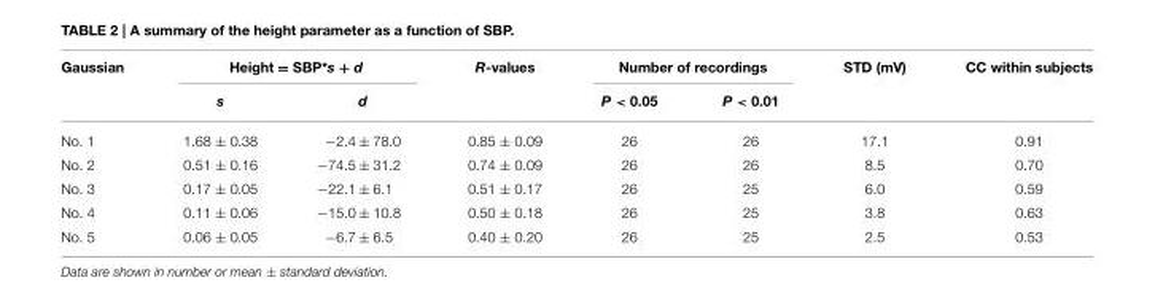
<table><thead><tr><td rowspan="2">Gaussian</td><td colspan="2">Height = SBP*s + d</td><td rowspan="2">R-values</td><td colspan="2">Number of recordings</td><td rowspan="2">STD (mV)</td><td rowspan="2">CC within subjects</td></tr><tr><td>s</td><td>d</td><td>P &lt; 0.05</td><td>P &lt; 0.01</td></tr></thead><tbody><tr><td>No. 1</td><td>1.68 ± 0.38</td><td>−2.4 ± 78.0</td><td>0.85 ± 0.09</td><td>26</td><td>26</td><td>17.1</td><td>0.91</td></tr><tr><td>No. 2</td><td>0.51 ± 0.16</td><td>−74.5 ± 31.2</td><td>0.74 ± 0.09</td><td>26</td><td>26</td><td>8.5</td><td>0.70</td></tr><tr><td>No. 3</td><td>0.17 ± 0.05</td><td>−22.1 ± 6.1</td><td>0.51 ± 0.17</td><td>26</td><td>25</td><td>6.0</td><td>0.59</td></tr><tr><td>No. 4</td><td>0.11 ± 0.06</td><td>−15.0 ± 10.8</td><td>0.50 ± 0.18</td><td>26</td><td>25</td><td>3.8</td><td>0.63</td></tr><tr><td>No. 5</td><td>0.06 ± 0.05</td><td>−6.7 ± 6.5</td><td>0.40 ± 0.20</td><td>26</td><td>25</td><td>2.5</td><td>0.53</td></tr></tbody></table>